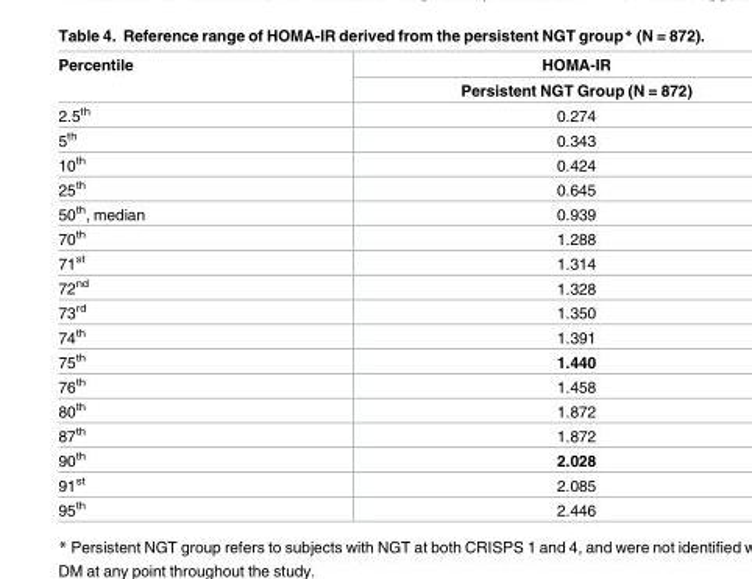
<table><thead><tr><td rowspan="2">Percentile</td><td rowspan="2">HOMA-IR Persistent NGT Group (N = 872)</td></tr><tr></tr></thead><tbody><tr><td>2.5<sup>th</sup></td><td>0.274</td></tr><tr><td>5<sup>th</sup></td><td>0.343</td></tr><tr><td>10<sup>th</sup></td><td>0.424</td></tr><tr><td>25<sup>th</sup></td><td>0.645</td></tr><tr><td>50<sup>th</sup>, median</td><td>0.939</td></tr><tr><td>70<sup>th</sup></td><td>1.288</td></tr><tr><td>71<sup>st</sup></td><td>1.314</td></tr><tr><td>72<sup>nd</sup></td><td>1.328</td></tr><tr><td>73<sup>rd</sup></td><td>1.350</td></tr><tr><td>74<sup>th</sup></td><td>1.391</td></tr><tr><td>75<sup>th</sup></td><td>1.440</td></tr><tr><td>76<sup>th</sup></td><td>1.458</td></tr><tr><td>80<sup>th</sup></td><td>1.872</td></tr><tr><td>87<sup>th</sup></td><td>1.872</td></tr><tr><td>90<sup>th</sup></td><td>2.028</td></tr><tr><td>91<sup>st</sup></td><td>2.085</td></tr><tr><td>95<sup>th</sup></td><td>2.446</td></tr></tbody></table>